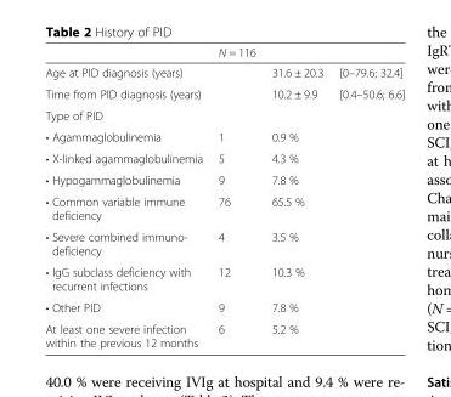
<table><thead><tr><td></td><td>N = 116</td><td></td><td></td></tr></thead><tbody><tr><td>Age at PID diagnosis (years)</td><td></td><td>31.6 ± 20.3</td><td>[0–79.6; 32.4]</td></tr><tr><td>Time from PID diagnosis (years)</td><td></td><td>10.2 ± 9.9</td><td>[0.4–50.6; 6.6]</td></tr><tr><td colspan="4">Type of PID</td></tr><tr><td>• Agammaglobulinemia</td><td>1</td><td>0.9 %</td><td></td></tr><tr><td>• X-linked agammaglobulinemia</td><td>5</td><td>4.3 %</td><td></td></tr><tr><td>• Hypogammaglobulinemia</td><td>9</td><td>7.8 %</td><td></td></tr><tr><td>• Common variable immune deficiency</td><td>76</td><td>65.5 %</td><td></td></tr><tr><td>• Severe combined immuno- deficiency</td><td>4</td><td>3.5 %</td><td></td></tr><tr><td>• IgG subclass deficiency with recurrent infections</td><td>12</td><td>10.3 %</td><td></td></tr><tr><td>• Other PID</td><td>9</td><td>7.8 %</td><td></td></tr><tr><td>At least one severe infection within the previous 12 months</td><td>6</td><td>5.2 %</td><td></td></tr></tbody></table>